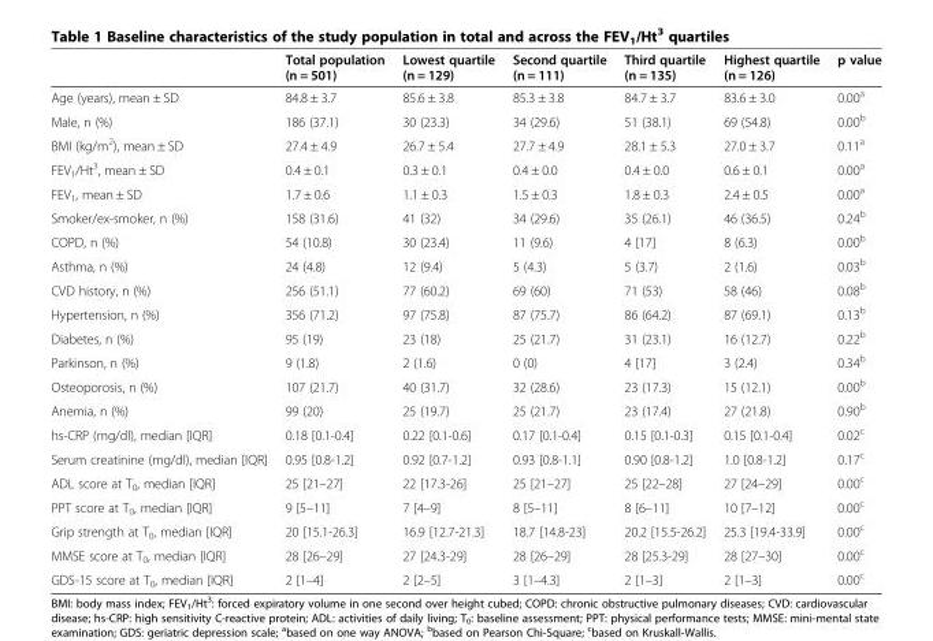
<table><thead><tr><td></td><td>Total population (n = 501)</td><td>Lowest quartile (n = 129)</td><td>Second quartile (n = 111)</td><td>Third quartile (n = 135)</td><td>Highest quartile (n = 126)</td><td>p value</td></tr></thead><tbody><tr><td>Age (years), mean ± SD</td><td>84.8 ± 3.7</td><td>85.6 ± 3.8</td><td>85.3 ± 3.8</td><td>84.7 ± 3.7</td><td>83.6 ± 3.0</td><td>0.00<sup>a</sup></td></tr><tr><td>Male, n (%)</td><td>186 (37.1)</td><td>30 (23.3)</td><td>34 (29.6)</td><td>51 (38.1)</td><td>69 (54.8)</td><td>0.00<sup>b</sup></td></tr><tr><td>BMI (kg/m<sup>2</sup>), mean ± SD</td><td>27.4 ± 4.9</td><td>26.7 ± 5.4</td><td>27.7 ± 4.9</td><td>28.1 ± 5.3</td><td>27.0 ± 3.7</td><td>0.11<sup>a</sup></td></tr><tr><td>FEV<sub>1</sub>/Ht<sup>3</sup>, mean ± SD</td><td>0.4 ± 0.1</td><td>0.3 ± 0.1</td><td>0.4 ± 0.0</td><td>0.4 ± 0.0</td><td>0.6 ± 0.1</td><td>0.00<sup>a</sup></td></tr><tr><td>FEV<sub>1</sub>, mean ± SD</td><td>1.7 ± 0.6</td><td>1.1 ± 0.3</td><td>1.5 ± 0.3</td><td>1.8 ± 0.3</td><td>2.4 ± 0.5</td><td>0.00<sup>a</sup></td></tr><tr><td>Smoker/ex-smoker, n (%)</td><td>158 (31.6)</td><td>41 (32)</td><td>34 (29.6)</td><td>35 (26.1)</td><td>46 (36.5)</td><td>0.24<sup>b</sup></td></tr><tr><td>COPD, n (%)</td><td>54 (10.8)</td><td>30 (23.4)</td><td>11 (9.6)</td><td>4 [17]</td><td>8 (6.3)</td><td>0.00<sup>b</sup></td></tr><tr><td>Asthma, n (%)</td><td>24 (4.8)</td><td>12 (9.4)</td><td>5 (4.3)</td><td>5 (3.7)</td><td>2 (1.6)</td><td>0.03<sup>b</sup></td></tr><tr><td>CVD history, n (%)</td><td>256 (51.1)</td><td>77 (60.2)</td><td>69 (60)</td><td>71 (53)</td><td>58 (46)</td><td>0.08<sup>b</sup></td></tr><tr><td>Hypertension, n (%)</td><td>356 (71.2)</td><td>97 (75.8)</td><td>87 (75.7)</td><td>86 (64.2)</td><td>87 (69.1)</td><td>0.13<sup>b</sup></td></tr><tr><td>Diabetes, n (%)</td><td>95 (19)</td><td>23 (18)</td><td>25 (21.7)</td><td>31 (23.1)</td><td>16 (12.7)</td><td>0.22<sup>b</sup></td></tr><tr><td>Parkinson, n (%)</td><td>9 (1.8)</td><td>2 (1.6)</td><td>0 (0)</td><td>4 [17]</td><td>3 (2.4)</td><td>0.34<sup>b</sup></td></tr><tr><td>Osteoporosis, n (%)</td><td>107 (21.7)</td><td>40 (31.7)</td><td>32 (28.6)</td><td>23 (17.3)</td><td>15 (12.1)</td><td>0.00<sup>b</sup></td></tr><tr><td>Anemia, n (%)</td><td>99 (20)</td><td>25 (19.7)</td><td>25 (21.7)</td><td>23 (17.4)</td><td>27 (21.8)</td><td>0.90<sup>b</sup></td></tr><tr><td>hs-CRP (mg/dl), median [IQR]</td><td>0.18 [0.1-0.4]</td><td>0.22 [0.1-0.6]</td><td>0.17 [0.1-0.4]</td><td>0.15 [0.1-0.3]</td><td>0.15 [0.1-0.4]</td><td>0.02<sup>c</sup></td></tr><tr><td>Serum creatinine (mg/dl), median [IQR]</td><td>0.95 [0.8-1.2]</td><td>0.92 [0.7-1.2]</td><td>0.93 [0.8-1.1]</td><td>0.90 [0.8-1.2]</td><td>1.0 [0.8-1.2]</td><td>0.17<sup>c</sup></td></tr><tr><td>ADL score at T<sub>0</sub>, median [IQR]</td><td>25 [21–27]</td><td>22 [17.3-26]</td><td>25 [21–27]</td><td>25 [22–28]</td><td>27 [24–29]</td><td>0.00<sup>c</sup></td></tr><tr><td>PPT score at T<sub>0</sub>, median [IQR]</td><td>9 [5–11]</td><td>7 [4–9]</td><td>8 [5–11]</td><td>8 [6–11]</td><td>10 [7–12]</td><td>0.00<sup>c</sup></td></tr><tr><td>Grip strength at T<sub>0</sub>, median [IQR]</td><td>20 [15.1-26.3]</td><td>16.9 [12.7-21.3]</td><td>18.7 [14.8-23]</td><td>20.2 [15.5-26.2]</td><td>25.3 [19.4-33.9]</td><td>0.00<sup>c</sup></td></tr><tr><td>MMSE score at T<sub>0</sub>, median [IQR]</td><td>28 [26–29]</td><td>27 [24.3-29]</td><td>28 [26–29]</td><td>28 [25.3-29]</td><td>28 [27–30]</td><td>0.00<sup>c</sup></td></tr><tr><td>GDS-15 score at T<sub>0</sub>, median [IQR]</td><td>2 [1–4]</td><td>2 [2–5]</td><td>3 [1–4.3]</td><td>2 [1–3]</td><td>2 [1–3]</td><td>0.00<sup>c</sup></td></tr></tbody></table>